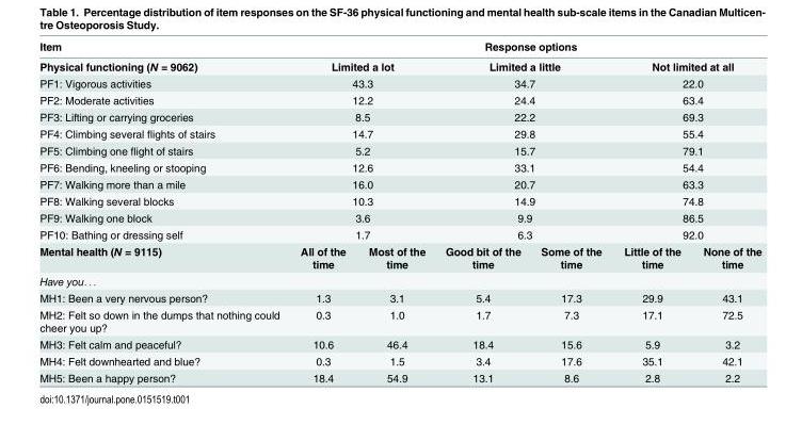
<table><thead><tr><td>Item</td><td colspan="6">Response options</td></tr></thead><tbody><tr><td>Physical functioning (N = 9062)</td><td colspan="2">Limited a lot</td><td colspan="2">Limited a little</td><td colspan="2">Not limited at all</td></tr><tr><td>PF1: Vigorous activities</td><td colspan="2">43.3</td><td colspan="2">34.7</td><td colspan="2">22.0</td></tr><tr><td>PF2: Moderate activities</td><td colspan="2">12.2</td><td colspan="2">24.4</td><td colspan="2">63.4</td></tr><tr><td>PF3: Lifting or carrying groceries</td><td colspan="2">8.5</td><td colspan="2">22.2</td><td colspan="2">69.3</td></tr><tr><td>PF4: Climbing several flights of stairs</td><td colspan="2">14.7</td><td colspan="2">29.8</td><td colspan="2">55.4</td></tr><tr><td>PF5: Climbing one flight of stairs</td><td colspan="2">5.2</td><td colspan="2">15.7</td><td colspan="2">79.1</td></tr><tr><td>PF6: Bending, kneeling or stooping</td><td colspan="2">12.6</td><td colspan="2">33.1</td><td colspan="2">54.4</td></tr><tr><td>PF7: Walking more than a mile</td><td colspan="2">16.0</td><td colspan="2">20.7</td><td colspan="2">63.3</td></tr><tr><td>PF8: Walking several blocks</td><td colspan="2">10.3</td><td colspan="2">14.9</td><td colspan="2">74.8</td></tr><tr><td>PF9: Walking one block</td><td colspan="2">3.6</td><td colspan="2">9.9</td><td colspan="2">86.5</td></tr><tr><td>PF10: Bathing or dressing self</td><td colspan="2">1.7</td><td colspan="2">6.3</td><td colspan="2">92.0</td></tr><tr><td>Mental health (N = 9115)</td><td>All of the time</td><td>Most of the time</td><td>Good bit of the time</td><td>Some of the time</td><td>Little of the time</td><td>None of the time</td></tr><tr><td colspan="7">Have you. . .</td></tr><tr><td>MH1: Been a very nervous person?</td><td>1.3</td><td>3.1</td><td>5.4</td><td>17.3</td><td>29.9</td><td>43.1</td></tr><tr><td>MH2: Felt so down in the dumps that nothing could cheer you up?</td><td>0.3</td><td>1.0</td><td>1.7</td><td>7.3</td><td>17.1</td><td>72.5</td></tr><tr><td>MH3: Felt calm and peaceful?</td><td>10.6</td><td>46.4</td><td>18.4</td><td>15.6</td><td>5.9</td><td>3.2</td></tr><tr><td>MH4: Felt downhearted and blue?</td><td>0.3</td><td>1.5</td><td>3.4</td><td>17.6</td><td>35.1</td><td>42.1</td></tr><tr><td>MH5: Been a happy person?</td><td>18.4</td><td>54.9</td><td>13.1</td><td>8.6</td><td>2.8</td><td>2.2</td></tr></tbody></table>